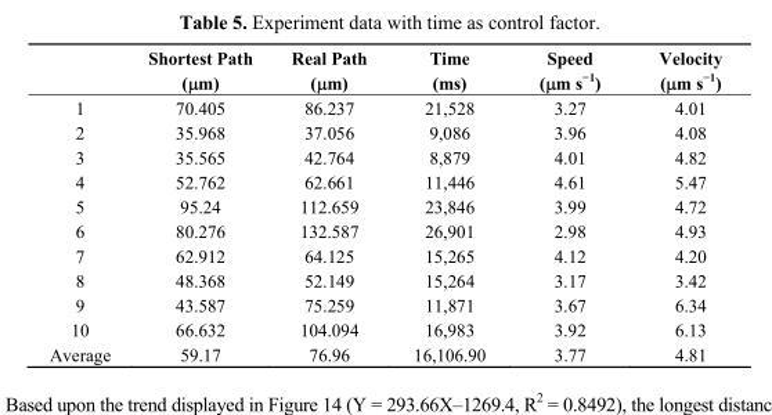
<table><thead><tr><td></td><td>Shortest Path (μm)</td><td>Real Path (μm)</td><td>Time (ms)</td><td>Speed (μm s<sup>−1</sup>)</td><td>Velocity (μm s<sup>−1</sup>)</td></tr></thead><tbody><tr><td>1</td><td>70.405</td><td>86.237</td><td>21,528</td><td>3.27</td><td>4.01</td></tr><tr><td>2</td><td>35.968</td><td>37.056</td><td>9,086</td><td>3.96</td><td>4.08</td></tr><tr><td>3</td><td>35.565</td><td>42.764</td><td>8,879</td><td>4.01</td><td>4.82</td></tr><tr><td>4</td><td>52.762</td><td>62.661</td><td>11,446</td><td>4.61</td><td>5.47</td></tr><tr><td>5</td><td>95.24</td><td>112.659</td><td>23,846</td><td>3.99</td><td>4.72</td></tr><tr><td>6</td><td>80.276</td><td>132.587</td><td>26,901</td><td>2.98</td><td>4.93</td></tr><tr><td>7</td><td>62.912</td><td>64.125</td><td>15,265</td><td>4.12</td><td>4.20</td></tr><tr><td>8</td><td>48.368</td><td>52.149</td><td>15,264</td><td>3.17</td><td>3.42</td></tr><tr><td>9</td><td>43.587</td><td>75.259</td><td>11,871</td><td>3.67</td><td>6.34</td></tr><tr><td>10</td><td>66.632</td><td>104.094</td><td>16,983</td><td>3.92</td><td>6.13</td></tr><tr><td>Average</td><td>59.17</td><td>76.96</td><td>16,106.90</td><td>3.77</td><td>4.81</td></tr></tbody></table>